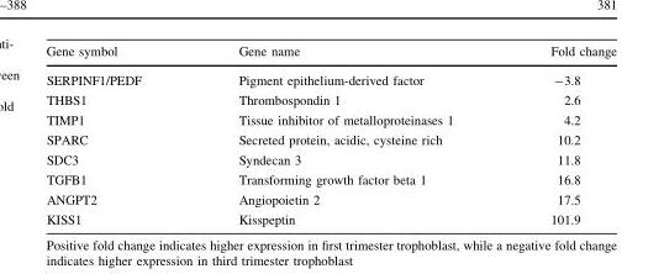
<table><thead><tr><td>Gene symbol</td><td>Gene name</td><td>Fold change</td></tr></thead><tbody><tr><td>SERPINF1/PEDF</td><td>Pigment epithelium-derived factor</td><td>-3.8</td></tr><tr><td>THBS1</td><td>Thrombospondin 1</td><td>2.6</td></tr><tr><td>TIMP1</td><td>Tissue inhibitor of metalloproteinases 1</td><td>4.2</td></tr><tr><td>SPARC</td><td>Secreted protein, acidic, cysteine rich</td><td>10.2</td></tr><tr><td>SDC3</td><td>Syndecan 3</td><td>11.8</td></tr><tr><td>TGFB1</td><td>Transforming growth factor beta 1</td><td>16.8</td></tr><tr><td>ANGPT2</td><td>Angiopoietin 2</td><td>17.5</td></tr><tr><td>KISS1</td><td>Kisspeptin</td><td>101.9</td></tr></tbody></table>